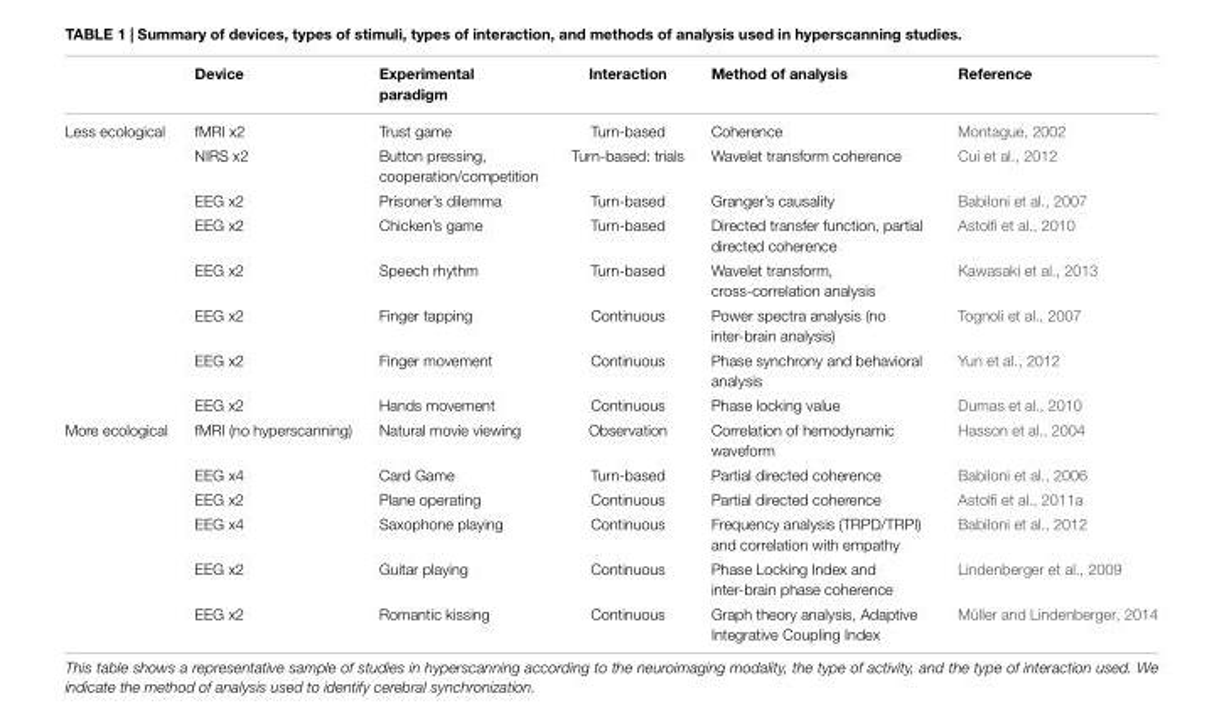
<table><thead><tr><td></td><td>Device</td><td>Experimental paradigm</td><td>Interaction</td><td>Method of analysis</td><td>Reference</td></tr></thead><tbody><tr><td rowspan="8">Less ecological</td><td>fMRI x2</td><td>Trust game</td><td>Turn-based</td><td>Coherence</td><td>Montague, 2002</td></tr><tr><td>NIRS x2</td><td>Button pressing, cooperation/competition</td><td>Turn-based: trials</td><td>Wavelet transform coherence</td><td>Cui et al., 2012</td></tr><tr><td>EEG x2</td><td>Prisoner’s dilemma</td><td>Turn-based</td><td>Granger’s causality</td><td>Babiloni et al., 2007</td></tr><tr><td>EEG x2</td><td>Chicken’s game</td><td>Turn-based</td><td>Directed transfer function, partial directed coherence</td><td>Astolfi et al., 2010</td></tr><tr><td>EEG x2</td><td>Speech rhythm</td><td>Turn-based</td><td>Wavelet transform, cross-correlation analysis</td><td>Kawasaki et al., 2013</td></tr><tr><td>EEG x2</td><td>Finger tapping</td><td>Continuous</td><td>Power spectra analysis (no inter-brain analysis)</td><td>Tognoli et al., 2007</td></tr><tr><td>EEG x2</td><td>Finger movement</td><td>Continuous</td><td>Phase synchrony and behavioral analysis</td><td>Yun et al., 2012</td></tr><tr><td>EEG x2</td><td>Hands movement</td><td>Continuous</td><td>Phase locking value</td><td>Dumas et al., 2010</td></tr><tr><td rowspan="6">More ecological</td><td>fMRI (no hyperscanning)</td><td>Natural movie viewing</td><td>Observation</td><td>Correlation of hemodynamic waveform</td><td>Hasson et al., 2004</td></tr><tr><td>EEG x4</td><td>Card Game</td><td>Turn-based</td><td>Partial directed coherence</td><td>Babiloni et al., 2006</td></tr><tr><td>EEG x2</td><td>Plane operating</td><td>Continuous</td><td>Partial directed coherence</td><td>Astolfi et al., 2011a</td></tr><tr><td>EEG x4</td><td>Saxophone playing</td><td>Continuous</td><td>Frequency analysis (TRPD/TRPI) and correlation with empathy</td><td>Babiloni et al., 2012</td></tr><tr><td>EEG x2</td><td>Guitar playing</td><td>Continuous</td><td>Phase Locking Index and inter-brain phase coherence</td><td>Lindenberger et al., 2009</td></tr><tr><td>EEG x2</td><td>Romantic kissing</td><td>Continuous</td><td>Graph theory analysis, Adaptive Integrative Coupling Index</td><td>Müller and Lindenberger, 2014</td></tr></tbody></table>